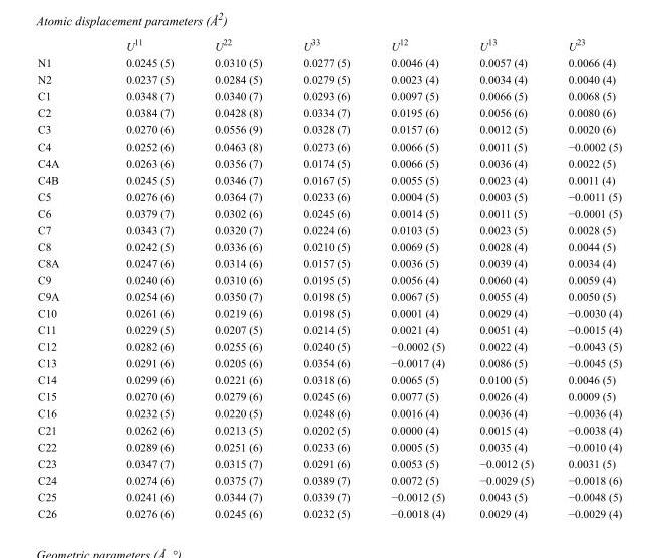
<table><thead><tr><td></td><td>U<sup>11</sup></td><td>U<sup>22</sup></td><td>U<sup>33</sup></td><td>U<sup>12</sup></td><td>U<sup>13</sup></td><td>U<sup>23</sup></td></tr></thead><tbody><tr><td>N1</td><td>0.0245 (5)</td><td>0.0310 (5)</td><td>0.0277 (5)</td><td>0.0046 (4)</td><td>0.0057 (4)</td><td>0.0066 (4)</td></tr><tr><td>N2</td><td>0.0237 (5)</td><td>0.0284 (5)</td><td>0.0279 (5)</td><td>0.0023 (4)</td><td>0.0034 (4)</td><td>0.0040 (4)</td></tr><tr><td>C1</td><td>0.0348 (7)</td><td>0.0340 (7)</td><td>0.0293 (6)</td><td>0.0097 (5)</td><td>0.0066 (5)</td><td>0.0068 (5)</td></tr><tr><td>C2</td><td>0.0384 (7)</td><td>0.0428 (8)</td><td>0.0334 (7)</td><td>0.0195 (6)</td><td>0.0056 (6)</td><td>0.0080 (6)</td></tr><tr><td>C3</td><td>0.0270 (6)</td><td>0.0556 (9)</td><td>0.0328 (7)</td><td>0.0157 (6)</td><td>0.0012 (5)</td><td>0.0020 (6)</td></tr><tr><td>C4</td><td>0.0252 (6)</td><td>0.0463 (8)</td><td>0.0273 (6)</td><td>0.0066 (5)</td><td>0.0011 (5)</td><td>−0.0002 (5)</td></tr><tr><td>C4A</td><td>0.0263 (6)</td><td>0.0356 (7)</td><td>0.0174 (5)</td><td>0.0066 (5)</td><td>0.0036 (4)</td><td>0.0022 (5)</td></tr><tr><td>C4B</td><td>0.0245 (5)</td><td>0.0346 (7)</td><td>0.0167 (5)</td><td>0.0055 (5)</td><td>0.0023 (4)</td><td>0.0011 (4)</td></tr><tr><td>C5</td><td>0.0276 (6)</td><td>0.0364 (7)</td><td>0.0233 (6)</td><td>0.0004 (5)</td><td>0.0003 (5)</td><td>−0.0011 (5)</td></tr><tr><td>C6</td><td>0.0379 (7)</td><td>0.0302 (6)</td><td>0.0245 (6)</td><td>0.0014 (5)</td><td>0.0011 (5)</td><td>−0.0001 (5)</td></tr><tr><td>C7</td><td>0.0343 (7)</td><td>0.0320 (7)</td><td>0.0224 (6)</td><td>0.0103 (5)</td><td>0.0023 (5)</td><td>0.0028 (5)</td></tr><tr><td>C8</td><td>0.0242 (5)</td><td>0.0336 (6)</td><td>0.0210 (5)</td><td>0.0069 (5)</td><td>0.0028 (4)</td><td>0.0044 (5)</td></tr><tr><td>C8A</td><td>0.0247 (6)</td><td>0.0314 (6)</td><td>0.0157 (5)</td><td>0.0036 (5)</td><td>0.0039 (4)</td><td>0.0034 (4)</td></tr><tr><td>C9</td><td>0.0240 (6)</td><td>0.0310 (6)</td><td>0.0195 (5)</td><td>0.0056 (4)</td><td>0.0060 (4)</td><td>0.0059 (4)</td></tr><tr><td>C9A</td><td>0.0254 (6)</td><td>0.0350 (7)</td><td>0.0198 (5)</td><td>0.0067 (5)</td><td>0.0055 (4)</td><td>0.0050 (5)</td></tr><tr><td>C10</td><td>0.0261 (6)</td><td>0.0219 (6)</td><td>0.0198 (5)</td><td>0.0001 (4)</td><td>0.0029 (4)</td><td>−0.0030 (4)</td></tr><tr><td>C11</td><td>0.0229 (5)</td><td>0.0207 (5)</td><td>0.0214 (5)</td><td>0.0021 (4)</td><td>0.0051 (4)</td><td>−0.0015 (4)</td></tr><tr><td>C12</td><td>0.0282 (6)</td><td>0.0255 (6)</td><td>0.0240 (5)</td><td>−0.0002 (5)</td><td>0.0022 (4)</td><td>−0.0043 (5)</td></tr><tr><td>C13</td><td>0.0291 (6)</td><td>0.0205 (6)</td><td>0.0354 (6)</td><td>−0.0017 (4)</td><td>0.0086 (5)</td><td>−0.0045 (5)</td></tr><tr><td>C14</td><td>0.0299 (6)</td><td>0.0221 (6)</td><td>0.0318 (6)</td><td>0.0065 (5)</td><td>0.0100 (5)</td><td>0.0046 (5)</td></tr><tr><td>C15</td><td>0.0270 (6)</td><td>0.0279 (6)</td><td>0.0245 (6)</td><td>0.0077 (5)</td><td>0.0026 (4)</td><td>0.0009 (5)</td></tr><tr><td>C16</td><td>0.0232 (5)</td><td>0.0220 (5)</td><td>0.0248 (6)</td><td>0.0016 (4)</td><td>0.0036 (4)</td><td>−0.0036 (4)</td></tr><tr><td>C21</td><td>0.0262 (6)</td><td>0.0213 (5)</td><td>0.0202 (5)</td><td>0.0000 (4)</td><td>0.0015 (4)</td><td>−0.0038 (4)</td></tr><tr><td>C22</td><td>0.0289 (6)</td><td>0.0251 (6)</td><td>0.0233 (6)</td><td>0.0005 (5)</td><td>0.0035 (4)</td><td>−0.0010 (4)</td></tr><tr><td>C23</td><td>0.0347 (7)</td><td>0.0315 (7)</td><td>0.0291 (6)</td><td>0.0053 (5)</td><td>−0.0012 (5)</td><td>0.0031 (5)</td></tr><tr><td>C24</td><td>0.0274 (6)</td><td>0.0375 (7)</td><td>0.0389 (7)</td><td>0.0072 (5)</td><td>−0.0029 (5)</td><td>−0.0018 (6)</td></tr><tr><td>C25</td><td>0.0241 (6)</td><td>0.0344 (7)</td><td>0.0339 (7)</td><td>−0.0012 (5)</td><td>0.0043 (5)</td><td>−0.0048 (5)</td></tr><tr><td>C26</td><td>0.0276 (6)</td><td>0.0245 (6)</td><td>0.0232 (5)</td><td>−0.0018 (4)</td><td>0.0029 (4)</td><td>−0.0029 (4)</td></tr></tbody></table>